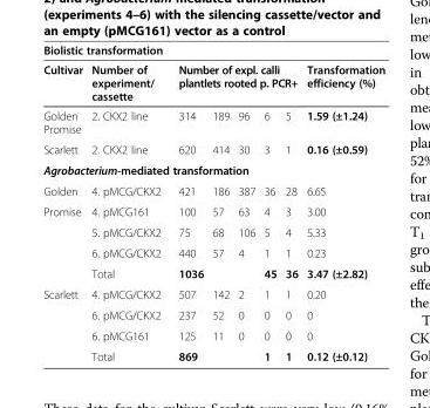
<table><thead><tr><td colspan="8">Biolistic transformation</td></tr><tr><td rowspan="2">Cultivar Golden Promise</td><td rowspan="2">Number of experiment/ cassette 2. CKX2 line</td><td colspan="5">Number of expl. calli plantlets rooted p. PCR+</td><td rowspan="2">Transformation efficiency (%) 1.59 (±1.24)</td></tr><tr><td>314</td><td>189</td><td>96</td><td>6</td><td>5</td></tr></thead><tbody><tr><td>Scarlett</td><td>2. CKX2 line</td><td>620</td><td>414</td><td>30</td><td>3</td><td>1</td><td>0.16 (±0.59)</td></tr><tr><td colspan="8">Agrobacterium-mediated transformation</td></tr><tr><td>Golden</td><td>4. pMCG/CKX2</td><td>421</td><td>186</td><td>387</td><td>36</td><td>28</td><td>6.65</td></tr><tr><td rowspan="4">Promise</td><td>4. pMCG161</td><td>100</td><td>57</td><td>63</td><td>4</td><td>3</td><td>3.00</td></tr><tr><td>5. pMCG/CKX2</td><td>75</td><td>68</td><td>106</td><td>5</td><td>4</td><td>5.33</td></tr><tr><td>6. pMCG/CKX2</td><td>440</td><td>57</td><td>4</td><td>1</td><td>1</td><td>0.23</td></tr><tr><td>Total</td><td>1036</td><td></td><td></td><td>45</td><td>36</td><td>3.47 (±2.82)</td></tr><tr><td rowspan="4">Scarlett</td><td>4. pMCG/CKX2</td><td>507</td><td>142</td><td>2</td><td>1</td><td>1</td><td>0.20</td></tr><tr><td>6. pMCG/CKX2</td><td>237</td><td>52</td><td>0</td><td>0</td><td>0</td><td>0</td></tr><tr><td>6. pMCG161</td><td>125</td><td>11</td><td>0</td><td>0</td><td>0</td><td>0</td></tr><tr><td>Total</td><td>869</td><td></td><td></td><td>1</td><td>1</td><td>0.12 (±0.12)</td></tr></tbody></table>